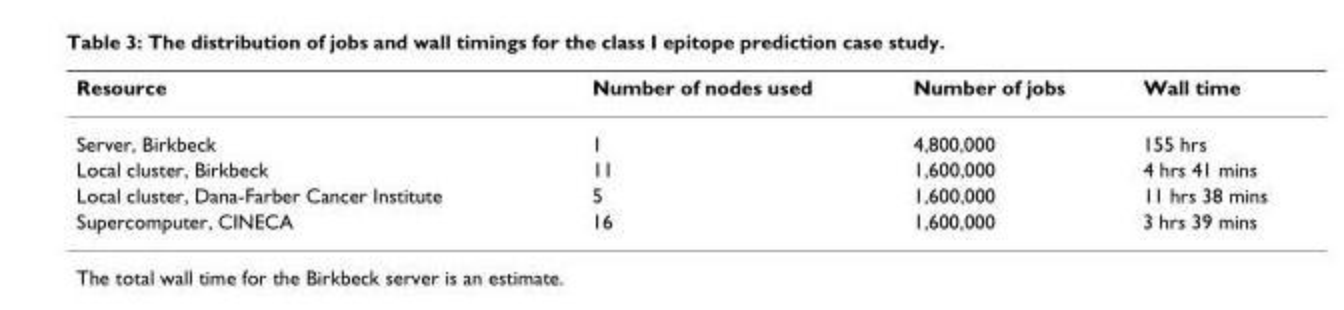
<table><thead><tr><td>Resource</td><td>Number of nodes used</td><td>Number of jobs</td><td>Wall time</td></tr></thead><tbody><tr><td>Server, Birkbeck</td><td>1</td><td>4,800,000</td><td>155 hrs</td></tr><tr><td>Local cluster, Birkbeck</td><td>11</td><td>1,600,000</td><td>4 hrs 41 mins</td></tr><tr><td>Local cluster, Dana-Farber Cancer Institute</td><td>5</td><td>1,600,000</td><td>11 hrs 38 mins</td></tr><tr><td>Supercomputer, CINECA</td><td>16</td><td>1,600,000</td><td>3 hrs 39 mins</td></tr></tbody></table>